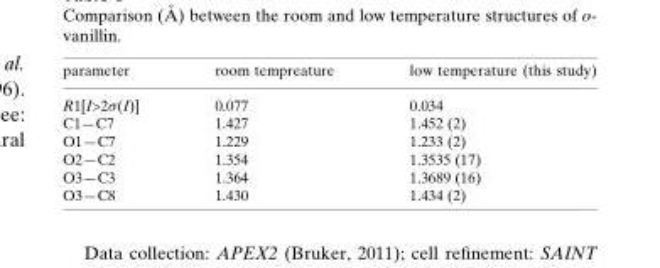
<table><tbody><tr><td>parameter</td><td>room tempreature</td><td>low temperature (this study)</td></tr><tr><td>R1[I&gt;2σ(I)]</td><td>0.077</td><td>0.034</td></tr><tr><td>C1—C7</td><td>1.427</td><td>1.452 (2)</td></tr><tr><td>O1—C7</td><td>1.229</td><td>1.233 (2)</td></tr><tr><td>O2—C2</td><td>1.354</td><td>1.3535 (17)</td></tr><tr><td>O3—C3</td><td>1.364</td><td>1.3689 (16)</td></tr><tr><td>O3—C8</td><td>1.430</td><td>1.434 (2)</td></tr></tbody></table>